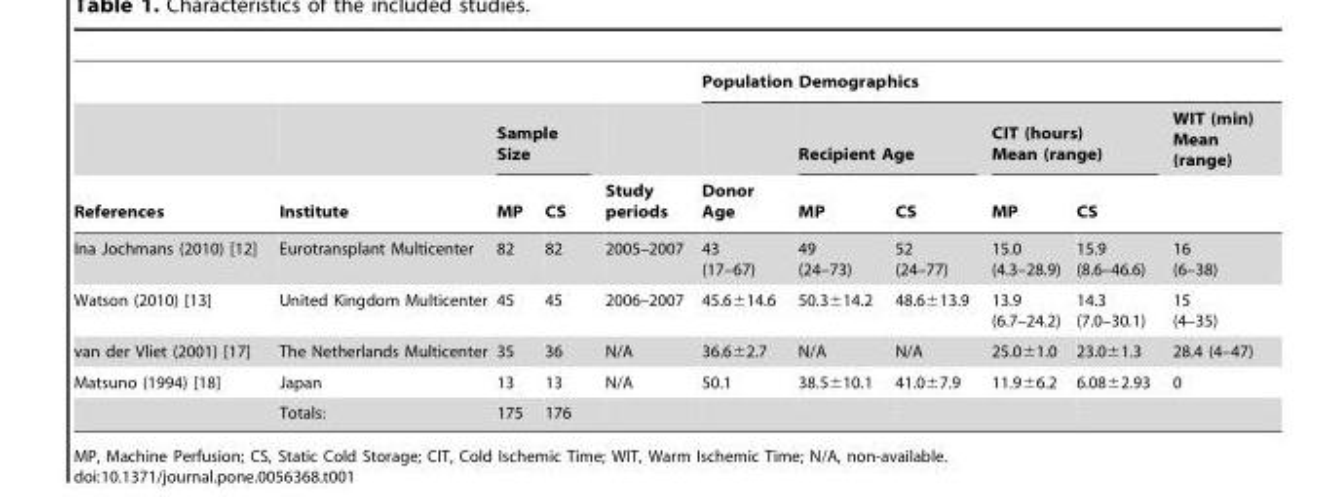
<table><thead><tr><td rowspan="3">References</td><td rowspan="3">Institute</td><td></td><td></td><td rowspan="3">Study periods</td><td colspan="6">Population Demographics</td></tr><tr><td colspan="2">Sample Size</td><td rowspan="2">Donor Age</td><td colspan="2">Recipient Age</td><td colspan="2">CIT (hours) Mean (range)</td><td rowspan="2">WIT (min) Mean (range)</td></tr><tr><td>MP</td><td>CS</td><td>MP</td><td>CS</td><td>MP</td><td>CS</td></tr></thead><tbody><tr><td>Ina Jochmans (2010) [12]</td><td>Eurotransplant Multicenter</td><td>82</td><td>82</td><td>2005–2007</td><td>43 (17–67)</td><td>49 (24–73)</td><td>52 (24–77)</td><td>15.0 (4.3–28.9)</td><td>15.9 (8.6–46.6)</td><td>16 (6–38)</td></tr><tr><td>Watson (2010) [13]</td><td>United Kingdom Multicenter</td><td>45</td><td>45</td><td>2006–2007</td><td>45.6±14.6</td><td>50.3±14.2</td><td>48.6±13.9</td><td>13.9 (6.7–24.2)</td><td>14.3 (7.0–30.1)</td><td>15 (4–35)</td></tr><tr><td>van der Vliet (2001) [17]</td><td>The Netherlands Multicenter</td><td>35</td><td>36</td><td>N/A</td><td>36.6±2.7</td><td>N/A</td><td>N/A</td><td>25.0±1.0</td><td>23.0±1.3</td><td>28.4 (4–47)</td></tr><tr><td rowspan="2">Matsuno (1994) [18]</td><td>Japan</td><td>13</td><td>13</td><td>N/A</td><td>50.1</td><td>38.5±10.1</td><td>41.0±7.9</td><td>11.9±6.2</td><td>6.08±2.93</td><td>0</td></tr><tr><td>Totals:</td><td>175</td><td>176</td><td></td><td></td><td></td><td></td><td></td><td></td><td></td></tr></tbody></table>